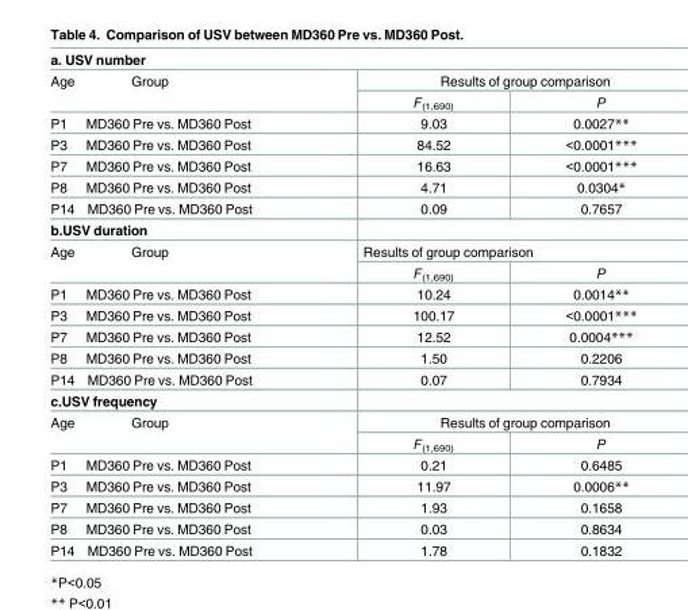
<table><tbody><tr><td colspan="3">a. USV number</td></tr><tr><td rowspan="2">Age Group</td><td colspan="2">Results of group comparison</td></tr><tr><td>F<sub>(1,690)</sub></td><td>P</td></tr><tr><td>P1 MD360 Pre vs. MD360 Post</td><td>9.03</td><td>0.0027**</td></tr><tr><td>P3 MD360 Pre vs. MD360 Post</td><td>84.52</td><td>&lt;0.0001***</td></tr><tr><td>P7 MD360 Pre vs. MD360 Post</td><td>16.63</td><td>&lt;0.0001***</td></tr><tr><td>P8 MD360 Pre vs. MD360 Post</td><td>4.71</td><td>0.0304*</td></tr><tr><td>P14 MD360 Pre vs. MD360 Post</td><td>0.09</td><td>0.7657</td></tr><tr><td colspan="3">b.USV duration</td></tr><tr><td rowspan="2">Age Group</td><td colspan="2">Results of group comparison</td></tr><tr><td>F<sub>(1,690)</sub></td><td>P</td></tr><tr><td>P1 MD360 Pre vs. MD360 Post</td><td>10.24</td><td>0.0014**</td></tr><tr><td>P3 MD360 Pre vs. MD360 Post</td><td>100.17</td><td>&lt;0.0001***</td></tr><tr><td>P7 MD360 Pre vs. MD360 Post</td><td>12.52</td><td>0.0004***</td></tr><tr><td>P8 MD360 Pre vs. MD360 Post</td><td>1.50</td><td>0.2206</td></tr><tr><td>P14 MD360 Pre vs. MD360 Post</td><td>0.07</td><td>0.7934</td></tr><tr><td colspan="3">c.USV frequency</td></tr><tr><td rowspan="2">Age Group</td><td colspan="2">Results of group comparison</td></tr><tr><td>F<sub>(1,690)</sub></td><td>P</td></tr><tr><td>P1 MD360 Pre vs. MD360 Post</td><td>0.21</td><td>0.6485</td></tr><tr><td>P3 MD360 Pre vs. MD360 Post</td><td>11.97</td><td>0.0006**</td></tr><tr><td>P7 MD360 Pre vs. MD360 Post</td><td>1.93</td><td>0.1658</td></tr><tr><td>P8 MD360 Pre vs. MD360 Post</td><td>0.03</td><td>0.8634</td></tr><tr><td>P14 MD360 Pre vs. MD360 Post</td><td>1.78</td><td>0.1832</td></tr></tbody></table>